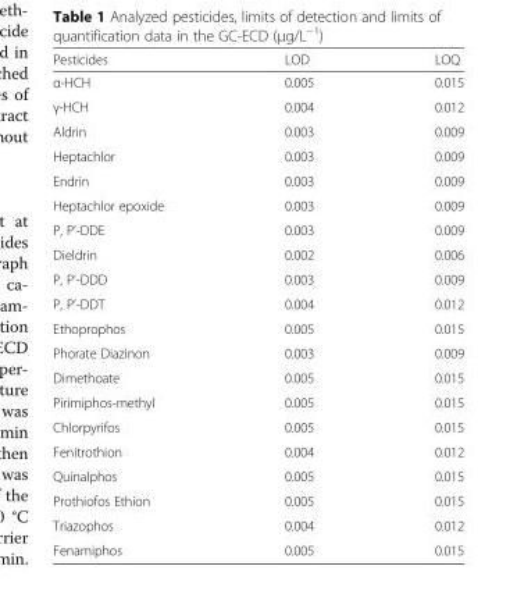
<table><thead><tr><td>Pesticides</td><td>LOD</td><td>LOQ</td></tr></thead><tbody><tr><td>α-HCH</td><td>0.005</td><td>0.015</td></tr><tr><td>γ-HCH</td><td>0.004</td><td>0.012</td></tr><tr><td>Aldrin</td><td>0.003</td><td>0.009</td></tr><tr><td>Heptachlor</td><td>0.003</td><td>0.009</td></tr><tr><td>Endrin</td><td>0.003</td><td>0.009</td></tr><tr><td>Heptachlor epoxide</td><td>0.003</td><td>0.009</td></tr><tr><td>P, P’-DDE</td><td>0.003</td><td>0.009</td></tr><tr><td>Dieldrin</td><td>0.002</td><td>0.006</td></tr><tr><td>P, P’-DDD</td><td>0.003</td><td>0.009</td></tr><tr><td>P, P’-DDT</td><td>0.004</td><td>0.012</td></tr><tr><td>Ethoprophos</td><td>0.005</td><td>0.015</td></tr><tr><td>Phorate Diazinon</td><td>0.003</td><td>0.009</td></tr><tr><td>Dimethoate</td><td>0.005</td><td>0.015</td></tr><tr><td>Pirimiphos-methyl</td><td>0.005</td><td>0.015</td></tr><tr><td>Chlorpyrifos</td><td>0.005</td><td>0.015</td></tr><tr><td>Fenitrothion</td><td>0.004</td><td>0.012</td></tr><tr><td>Quinalphos</td><td>0.005</td><td>0.015</td></tr><tr><td>Prothiofos Ethion</td><td>0.005</td><td>0.015</td></tr><tr><td>Triazophos</td><td>0.004</td><td>0.012</td></tr><tr><td>Fenamiphos</td><td>0.005</td><td>0.015</td></tr></tbody></table>